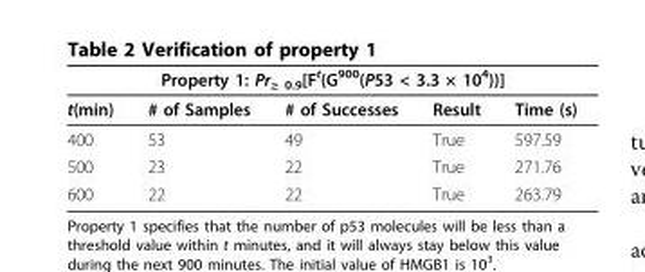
<table><thead><tr><td colspan="5">Property 1: Pr<sub>≥ 0.9</sub>[F<sup>t</sup>(G<sup>900</sup>(P53 &lt; 3.3 × 10<sup>4</sup>))]</td></tr><tr><td>t(min)</td><td># of Samples</td><td># of Successes</td><td>Result</td><td>Time (s)</td></tr></thead><tbody><tr><td>400</td><td>53</td><td>49</td><td>True</td><td>597.59</td></tr><tr><td>500</td><td>23</td><td>22</td><td>True</td><td>271.76</td></tr><tr><td>600</td><td>22</td><td>22</td><td>True</td><td>263.79</td></tr></tbody></table>